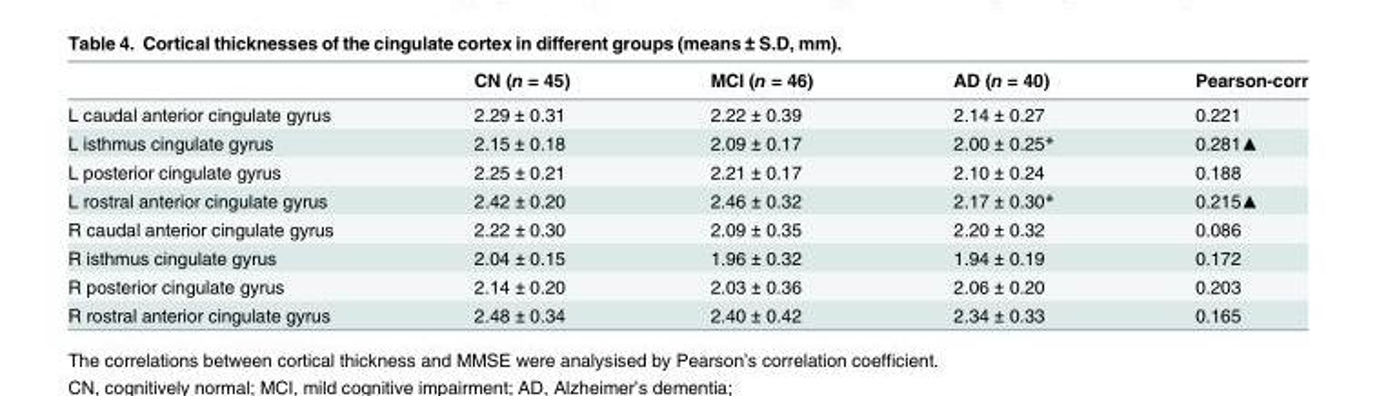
<table><thead><tr><td></td><td>CN (n = 45)</td><td>MCI (n = 46)</td><td>AD (n = 40)</td><td>Pearson-corr</td></tr></thead><tbody><tr><td>L caudal anterior cingulate gyrus</td><td>2.29 ± 0.31</td><td>2.22 ± 0.39</td><td>2.14 ± 0.27</td><td>0.221</td></tr><tr><td>L isthmus cingulate gyrus</td><td>2.15 ± 0.18</td><td>2.09 ± 0.17</td><td>2.00 ± 0.25*</td><td>0.281▲</td></tr><tr><td>L posterior cingulate gyrus</td><td>2.25 ± 0.21</td><td>2.21 ± 0.17</td><td>2.10 ± 0.24</td><td>0.188</td></tr><tr><td>L rostral anterior cingulate gyrus</td><td>2.42 ± 0.20</td><td>2.46 ± 0.32</td><td>2.17 ± 0.30*</td><td>0.215▲</td></tr><tr><td>R caudal anterior cingulate gyrus</td><td>2.22 ± 0.30</td><td>2.09 ± 0.35</td><td>2.20 ± 0.32</td><td>0.086</td></tr><tr><td>R isthmus cingulate gyrus</td><td>2.04 ± 0.15</td><td>1.96 ± 0.32</td><td>1.94 ± 0.19</td><td>0.172</td></tr><tr><td>R posterior cingulate gyrus</td><td>2.14 ± 0.20</td><td>2.03 ± 0.36</td><td>2.06 ± 0.20</td><td>0.203</td></tr><tr><td>R rostral anterior cingulate gyrus</td><td>2.48 ± 0.34</td><td>2.40 ± 0.42</td><td>2.34 ± 0.33</td><td>0.165</td></tr></tbody></table>